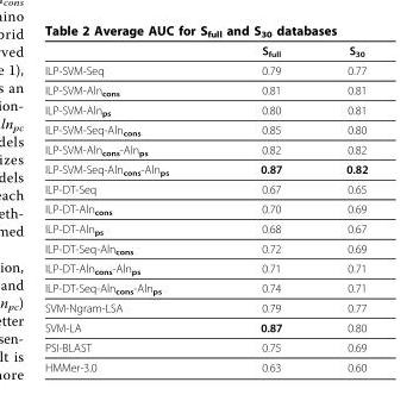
<table><thead><tr><td></td><td>S<sub>full</sub></td><td>S<sub>30</sub></td></tr></thead><tbody><tr><td>ILP-SVM-Seq</td><td>0.79</td><td>0.77</td></tr><tr><td>ILP-SVM-Aln<sub>cons</sub></td><td>0.81</td><td>0.81</td></tr><tr><td>ILP-SVM-Aln<sub>ps</sub></td><td>0.80</td><td>0.81</td></tr><tr><td>ILP-SVM-Seq-Aln<sub>cons</sub></td><td>0.85</td><td>0.80</td></tr><tr><td>ILP-SVM-Aln<sub>cons</sub>-Aln<sub>ps</sub></td><td>0.82</td><td>0.82</td></tr><tr><td>ILP-SVM-Seq-Aln<sub>cons</sub>-Aln<sub>ps</sub></td><td>0.87</td><td>0.82</td></tr><tr><td>ILP-DT-Seq</td><td>0.67</td><td>0.65</td></tr><tr><td>ILP-DT-Aln<sub>cons</sub></td><td>0.70</td><td>0.69</td></tr><tr><td>ILP-DT-Aln<sub>ps</sub></td><td>0.68</td><td>0.67</td></tr><tr><td>ILP-DT-Seq-Aln<sub>cons</sub></td><td>0.72</td><td>0.69</td></tr><tr><td>ILP-DT-Aln<sub>cons</sub>-Aln<sub>ps</sub></td><td>0.71</td><td>0.71</td></tr><tr><td>ILP-DT-Seq-Aln<sub>cons</sub>-Aln<sub>ps</sub></td><td>0.74</td><td>0.71</td></tr><tr><td>SVM-Ngram-LSA</td><td>0.79</td><td>0.77</td></tr><tr><td>SVM-LA</td><td>0.87</td><td>0.80</td></tr><tr><td>PSI-BLAST</td><td>0.75</td><td>0.69</td></tr><tr><td>HMMer-3.0</td><td>0.63</td><td>0.60</td></tr></tbody></table>